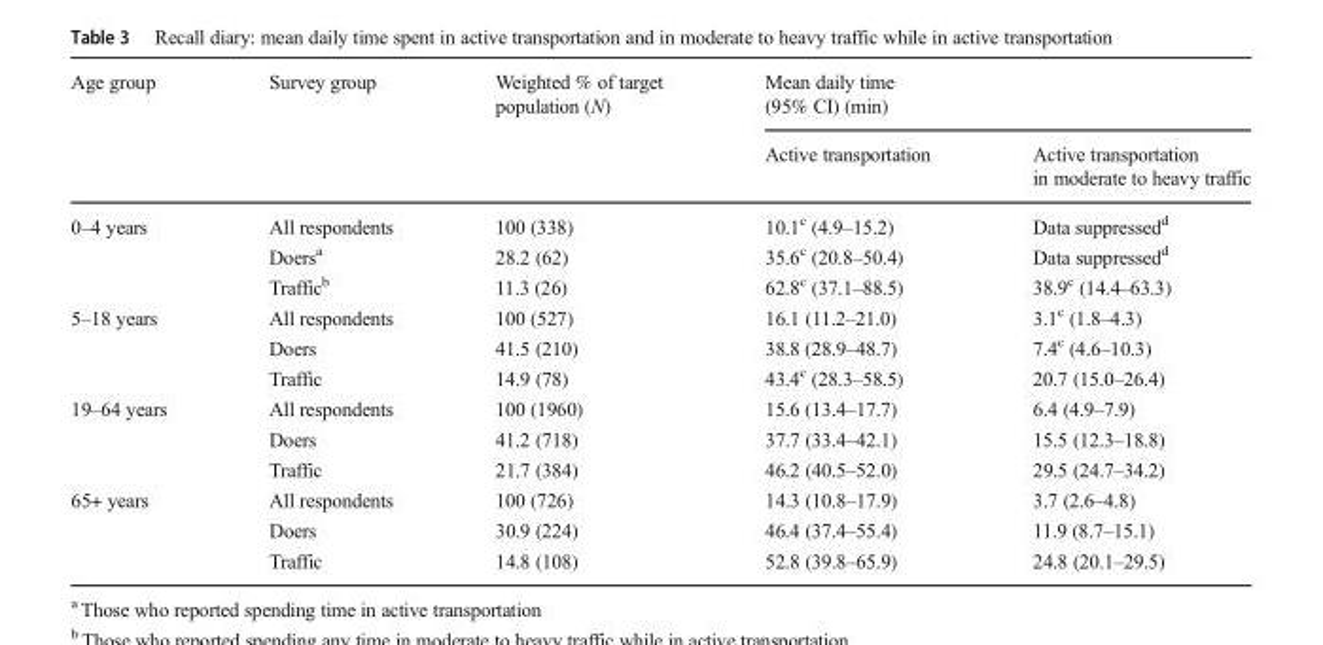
<table><thead><tr><td rowspan="2">Age group</td><td rowspan="2">Survey group</td><td rowspan="2">Weighted % of target population (N)</td><td colspan="2">Mean daily time (95% CI) (min)</td></tr><tr><td>Active transportation</td><td>Active transportation in moderate to heavy traffic</td></tr></thead><tbody><tr><td rowspan="3">0–4 years</td><td>All respondents</td><td>100 (338)</td><td>10.1<sup>c</sup> (4.9–15.2)</td><td>Data suppressed<sup>d</sup></td></tr><tr><td>Doers<sup>a</sup></td><td>28.2 (62)</td><td>35.6<sup>c</sup> (20.8–50.4)</td><td>Data suppressed<sup>d</sup></td></tr><tr><td>Traffic<sup>b</sup></td><td>11.3 (26)</td><td>62.8<sup>c</sup> (37.1–88.5)</td><td>38.9<sup>c</sup> (14.4–63.3)</td></tr><tr><td rowspan="3">5–18 years</td><td>All respondents</td><td>100 (527)</td><td>16.1 (11.2–21.0)</td><td>3.1<sup>c</sup> (1.8–4.3)</td></tr><tr><td>Doers</td><td>41.5 (210)</td><td>38.8 (28.9–48.7)</td><td>7.4<sup>c</sup> (4.6–10.3)</td></tr><tr><td>Traffic</td><td>14.9 (78)</td><td>43.4<sup>c</sup> (28.3–58.5)</td><td>20.7 (15.0–26.4)</td></tr><tr><td rowspan="3">19–64 years</td><td>All respondents</td><td>100 (1960)</td><td>15.6 (13.4–17.7)</td><td>6.4 (4.9–7.9)</td></tr><tr><td>Doers</td><td>41.2 (718)</td><td>37.7 (33.4–42.1)</td><td>15.5 (12.3–18.8)</td></tr><tr><td>Traffic</td><td>21.7 (384)</td><td>46.2 (40.5–52.0)</td><td>29.5 (24.7–34.2)</td></tr><tr><td rowspan="3">65+ years</td><td>All respondents</td><td>100 (726)</td><td>14.3 (10.8–17.9)</td><td>3.7 (2.6–4.8)</td></tr><tr><td>Doers</td><td>30.9 (224)</td><td>46.4 (37.4–55.4)</td><td>11.9 (8.7–15.1)</td></tr><tr><td>Traffic</td><td>14.8 (108)</td><td>52.8 (39.8–65.9)</td><td>24.8 (20.1–29.5)</td></tr></tbody></table>